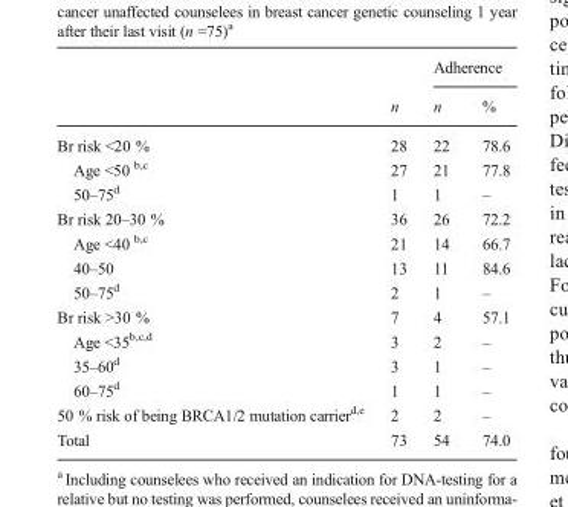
<table><thead><tr><td rowspan="2"></td><td rowspan="2">n</td><td colspan="2">Adherence</td></tr><tr><td>n</td><td>%</td></tr></thead><tbody><tr><td>Br risk &lt;20 %</td><td>28</td><td>22</td><td>78.6</td></tr><tr><td>Age &lt;50 <sup>b,c</sup></td><td>27</td><td>21</td><td>77.8</td></tr><tr><td>50–75<sup>d</sup></td><td>1</td><td>1</td><td>–</td></tr><tr><td>Br risk 20–30 %</td><td>36</td><td>26</td><td>72.2</td></tr><tr><td>Age &lt;40 <sup>b,c</sup></td><td>21</td><td>14</td><td>66.7</td></tr><tr><td>40–50</td><td>13</td><td>11</td><td>84.6</td></tr><tr><td>50–75<sup>d</sup></td><td>2</td><td>1</td><td>–</td></tr><tr><td>Br risk &gt;30 %</td><td>7</td><td>4</td><td>57.1</td></tr><tr><td>Age &lt;35<sup>b,c,d</sup></td><td>3</td><td>2</td><td>–</td></tr><tr><td>35–60<sup>d</sup></td><td>3</td><td>1</td><td>–</td></tr><tr><td>60–75<sup>d</sup></td><td>1</td><td>1</td><td>–</td></tr><tr><td>50 % risk of being BRCA1/2 mutation carrier<sup>d,e</sup></td><td>2</td><td>2</td><td>–</td></tr><tr><td>Total</td><td>73</td><td>54</td><td>74.0</td></tr></tbody></table>